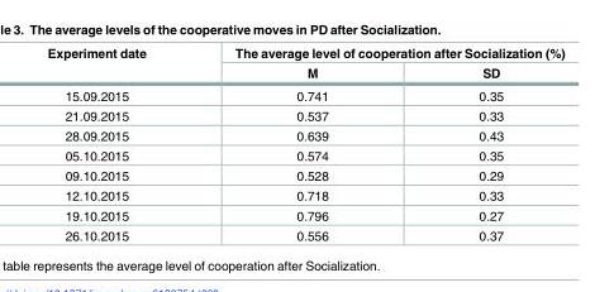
<table><thead><tr><td rowspan="2">Experiment date</td><td colspan="2">The average level of cooperation after Socialization (%)</td></tr><tr><td>M</td><td>SD</td></tr></thead><tbody><tr><td>15.09.2015</td><td>0.741</td><td>0.35</td></tr><tr><td>21.09.2015</td><td>0.537</td><td>0.33</td></tr><tr><td>28.09.2015</td><td>0.639</td><td>0.43</td></tr><tr><td>05.10.2015</td><td>0.574</td><td>0.35</td></tr><tr><td>09.10.2015</td><td>0.528</td><td>0.29</td></tr><tr><td>12.10.2015</td><td>0.718</td><td>0.33</td></tr><tr><td>19.10.2015</td><td>0.796</td><td>0.27</td></tr><tr><td>26.10.2015</td><td>0.556</td><td>0.37</td></tr></tbody></table>